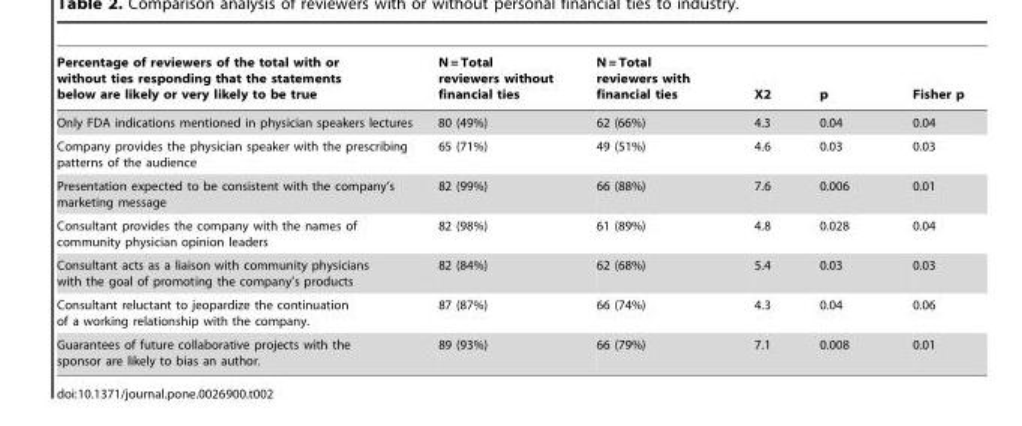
<table><thead><tr><td>Percentage of reviewers of the total with or without ties responding that the statements below are likely or very likely to be true</td><td>N = Total reviewers without financial ties</td><td>N = Total reviewers with financial ties</td><td>X2</td><td>p</td><td>Fisher p</td></tr></thead><tbody><tr><td>Only FDA indications mentioned in physician speakers lectures</td><td>80 (49%)</td><td>62 (66%)</td><td>4.3</td><td>0.04</td><td>0.04</td></tr><tr><td>Company provides the physician speaker with the prescribing patterns of the audience</td><td>65 (71%)</td><td>49 (51%)</td><td>4.6</td><td>0.03</td><td>0.03</td></tr><tr><td>Presentation expected to be consistent with the company’s marketing message</td><td>82 (99%)</td><td>66 (88%)</td><td>7.6</td><td>0.006</td><td>0.01</td></tr><tr><td>Consultant provides the company with the names of community physician opinion leaders</td><td>82 (98%)</td><td>61 (89%)</td><td>4.8</td><td>0.028</td><td>0.04</td></tr><tr><td>Consultant acts as a liaison with community physicians with the goal of promoting the company’s products</td><td>82 (84%)</td><td>62 (68%)</td><td>5.4</td><td>0.03</td><td>0.03</td></tr><tr><td>Consultant reluctant to jeopardize the continuation of a working relationship with the company.</td><td>87 (87%)</td><td>66 (74%)</td><td>4.3</td><td>0.04</td><td>0.06</td></tr><tr><td>Guarantees of future collaborative projects with the sponsor are likely to bias an author.</td><td>89 (93%)</td><td>66 (79%)</td><td>7.1</td><td>0.008</td><td>0.01</td></tr></tbody></table>